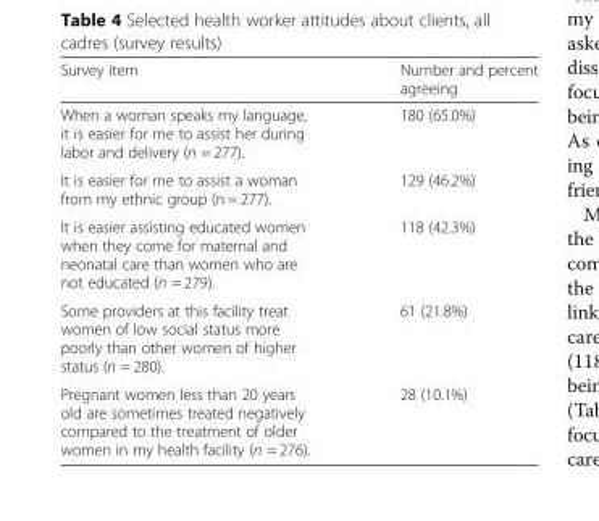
<table><thead><tr><td>Survey item</td><td>Number and percent agreeing</td></tr></thead><tbody><tr><td>When a woman speaks my language, it is easier for me to assist her during labor and delivery (n = 277).</td><td>180 (65.0%)</td></tr><tr><td>It is easier for me to assist a woman from my ethnic group (n = 277).</td><td>129 (46.2%)</td></tr><tr><td>It is easier assisting educated women when they come for maternal and neonatal care than women who are not educated (n = 279).</td><td>118 (42.3%)</td></tr><tr><td>Some providers at this facility treat women of low social status more poorly than other women of higher status (n = 280).</td><td>61 (21.8%)</td></tr><tr><td>Pregnant women less than 20 years old are sometimes treated negatively compared to the treatment of older women in my health facility (n = 276).</td><td>28 (10.1%)</td></tr></tbody></table>